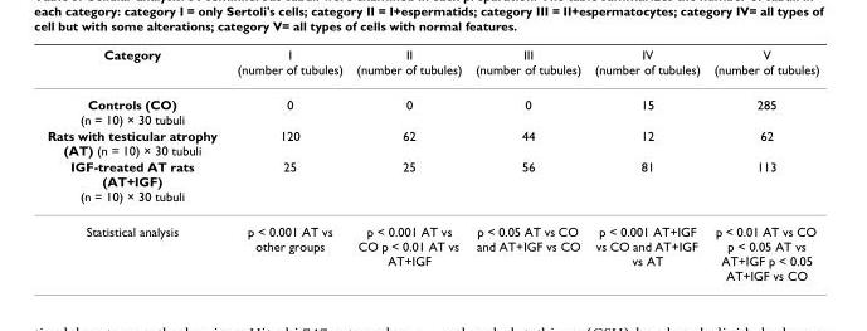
<table><thead><tr><td>Category</td><td>I (number of tubules)</td><td>II (number of tubules)</td><td>III (number of tubules)</td><td>IV (number of tubules)</td><td>V (number of tubules)</td></tr></thead><tbody><tr><td>Controls (CO) (n = 10) × 30 tubuli</td><td>0</td><td>0</td><td>0</td><td>15</td><td>285</td></tr><tr><td>Rats with testicular atrophy (AT) (n = 10) × 30 tubuli</td><td>120</td><td>62</td><td>44</td><td>12</td><td>62</td></tr><tr><td>IGF-treated AT rats (AT+IGF) (n = 10) × 30 tubuli</td><td>25</td><td>25</td><td>56</td><td>81</td><td>113</td></tr><tr><td>Statistical analysis</td><td>p &lt; 0.001 AT vs other groups</td><td>p &lt; 0.001 AT vs CO p &lt; 0.01 AT vs AT+IGF</td><td>p &lt; 0.05 AT vs CO and AT+IGF vs CO</td><td>p &lt; 0.001 AT+IGF vs CO and AT+IGF vs AT</td><td>p &lt; 0.01 AT vs CO p &lt; 0.05 AT vs AT+IGF p &lt; 0.05 AT+IGF vs CO</td></tr></tbody></table>